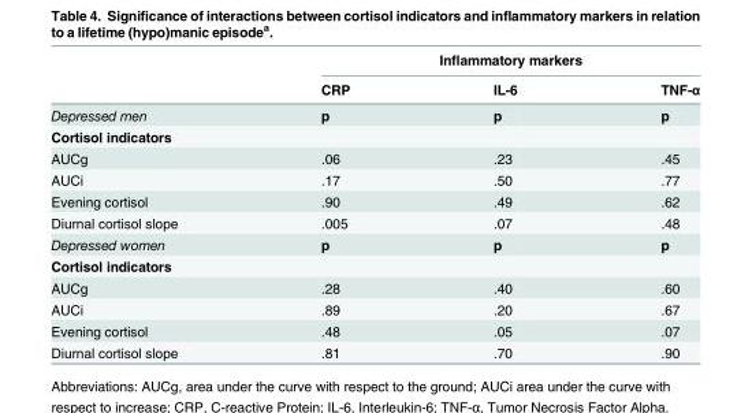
<table><thead><tr><td rowspan="2"></td><td colspan="3">Inflammatory markers</td></tr><tr><td>CRP</td><td>IL-6</td><td>TNF-α</td></tr></thead><tbody><tr><td>Depressed men</td><td>p</td><td>p</td><td>p</td></tr><tr><td colspan="4">Cortisol indicators</td></tr><tr><td>AUCg</td><td>.06</td><td>.23</td><td>.45</td></tr><tr><td>AUCi</td><td>.17</td><td>.50</td><td>.77</td></tr><tr><td>Evening cortisol</td><td>.90</td><td>.49</td><td>.62</td></tr><tr><td>Diurnal cortisol slope</td><td>.005</td><td>.07</td><td>.48</td></tr><tr><td>Depressed women</td><td>p</td><td>p</td><td>p</td></tr><tr><td colspan="4">Cortisol indicators</td></tr><tr><td>AUCg</td><td>.28</td><td>.40</td><td>.60</td></tr><tr><td>AUCi</td><td>.89</td><td>.20</td><td>.67</td></tr><tr><td>Evening cortisol</td><td>.48</td><td>.05</td><td>.07</td></tr><tr><td>Diurnal cortisol slope</td><td>.81</td><td>.70</td><td>.90</td></tr></tbody></table>